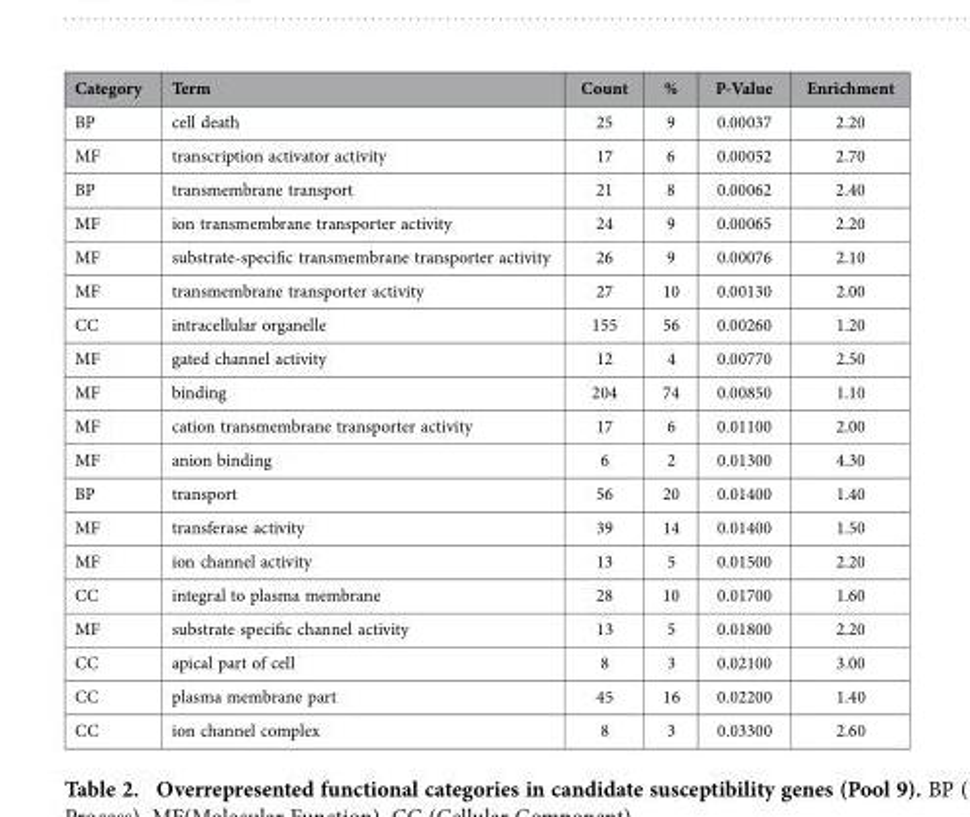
<table><thead><tr><td>Category</td><td>Term</td><td>Count</td><td>%</td><td>P-Value</td><td>Enrichment</td></tr></thead><tbody><tr><td>BP</td><td>cell death</td><td>25</td><td>9</td><td>0.00037</td><td>2.20</td></tr><tr><td>MF</td><td>transcription activator activity</td><td>17</td><td>6</td><td>0.00052</td><td>2.70</td></tr><tr><td>BP</td><td>transmembrane transport</td><td>21</td><td>8</td><td>0.00062</td><td>2.40</td></tr><tr><td>MF</td><td>ion transmembrane transporter activity</td><td>24</td><td>9</td><td>0.00065</td><td>2.20</td></tr><tr><td>MF</td><td>substrate-specific transmembrane transporter activity</td><td>26</td><td>9</td><td>0.00076</td><td>2.10</td></tr><tr><td>MF</td><td>transmembrane transporter activity</td><td>27</td><td>10</td><td>0.00130</td><td>2.00</td></tr><tr><td>CC</td><td>intracellular organelle</td><td>155</td><td>56</td><td>0.00260</td><td>1.20</td></tr><tr><td>MF</td><td>gated channel activity</td><td>12</td><td>4</td><td>0.00770</td><td>2.50</td></tr><tr><td>MF</td><td>binding</td><td>204</td><td>74</td><td>0.00850</td><td>1.10</td></tr><tr><td>MF</td><td>cation transmembrane transporter activity</td><td>17</td><td>6</td><td>0.01100</td><td>2.00</td></tr><tr><td>MF</td><td>anion binding</td><td>6</td><td>2</td><td>0.01300</td><td>4.30</td></tr><tr><td>BP</td><td>transport</td><td>56</td><td>20</td><td>0.01400</td><td>1.40</td></tr><tr><td>MF</td><td>transferase activity</td><td>39</td><td>14</td><td>0.01400</td><td>1.50</td></tr><tr><td>MF</td><td>ion channel activity</td><td>13</td><td>5</td><td>0.01500</td><td>2.20</td></tr><tr><td>CC</td><td>integral to plasma membrane</td><td>28</td><td>10</td><td>0.01700</td><td>1.60</td></tr><tr><td>MF</td><td>substrate specific channel activity</td><td>13</td><td>5</td><td>0.01800</td><td>2.20</td></tr><tr><td>CC</td><td>apical part of cell</td><td>8</td><td>3</td><td>0.02100</td><td>3.00</td></tr><tr><td>CC</td><td>plasma membrane part</td><td>45</td><td>16</td><td>0.02200</td><td>1.40</td></tr><tr><td>CC</td><td>ion channel complex</td><td>8</td><td>3</td><td>0.03300</td><td>2.60</td></tr></tbody></table>